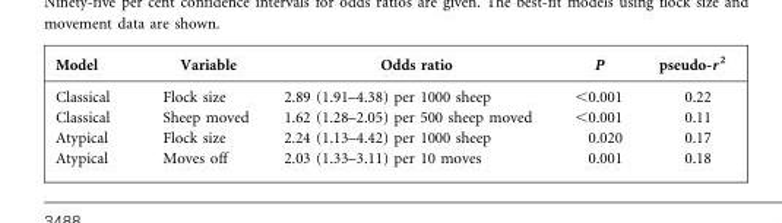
<table><thead><tr><td>Model</td><td>Variable</td><td>Odds ratio</td><td>P</td><td>pseudo-r <sup>2</sup></td></tr></thead><tbody><tr><td>Classical</td><td>Flock size</td><td>2.89 (1.91–4.38) per 1000 sheep</td><td>&lt;0.001</td><td>0.22</td></tr><tr><td>Classical</td><td>Sheep moved</td><td>1.62 (1.28–2.05) per 500 sheep moved</td><td>&lt;0.001</td><td>0.11</td></tr><tr><td>Atypical</td><td>Flock size</td><td>2.24 (1.13–4.42) per 1000 sheep</td><td>0.020</td><td>0.17</td></tr><tr><td>Atypical</td><td>Moves off</td><td>2.03 (1.33–3.11) per 10 moves</td><td>0.001</td><td>0.18</td></tr></tbody></table>